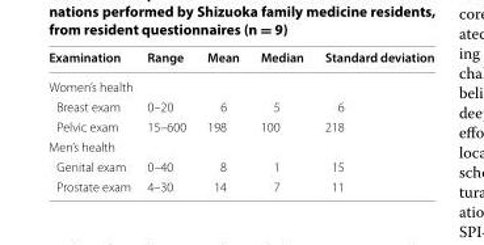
<table><thead><tr><td>Examination</td><td>Range</td><td>Mean</td><td>Median</td><td>Standard deviation</td></tr></thead><tbody><tr><td colspan="5">Women’s health</td></tr><tr><td>Breast exam</td><td>0–20</td><td>6</td><td>5</td><td>6</td></tr><tr><td>Pelvic exam</td><td>15–600</td><td>198</td><td>100</td><td>218</td></tr><tr><td colspan="5">Men’s health</td></tr><tr><td>Genital exam</td><td>0–40</td><td>8</td><td>1</td><td>15</td></tr><tr><td>Prostate exam</td><td>4–30</td><td>14</td><td>7</td><td>11</td></tr></tbody></table>